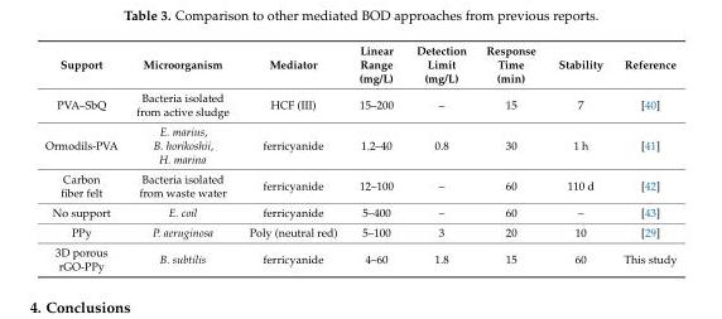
<table><thead><tr><td>Support</td><td>Microorganism</td><td>Mediator</td><td>Linear Range (mg/L)</td><td>Detection Limit (mg/L)</td><td>Response Time (min)</td><td>Stability</td><td>Reference</td></tr></thead><tbody><tr><td>PVA–SbQ</td><td>Bacteria isolated from active sludge</td><td>HCF (III)</td><td>15–200</td><td>–</td><td>15</td><td>7</td><td>[40]</td></tr><tr><td>Ormodils-PVA</td><td>E. marius, B. horikoshii, H. marina</td><td>ferricyanide</td><td>1.2–40</td><td>0.8</td><td>30</td><td>1 h</td><td>[41]</td></tr><tr><td>Carbon fiber felt</td><td>Bacteria isolated from waste water</td><td>ferricyanide</td><td>12–100</td><td>–</td><td>60</td><td>110 d</td><td>[42]</td></tr><tr><td>No support</td><td>E. coil</td><td>ferricyanide</td><td>5–400</td><td>–</td><td>60</td><td>–</td><td>[43]</td></tr><tr><td>PPy</td><td>P. aeruginosa</td><td>Poly (neutral red)</td><td>5–100</td><td>3</td><td>20</td><td>10</td><td>[29]</td></tr><tr><td>3D porous rGO-PPy</td><td>B. subtilis</td><td>ferricyanide</td><td>4–60</td><td>1.8</td><td>15</td><td>60</td><td>This study</td></tr></tbody></table>